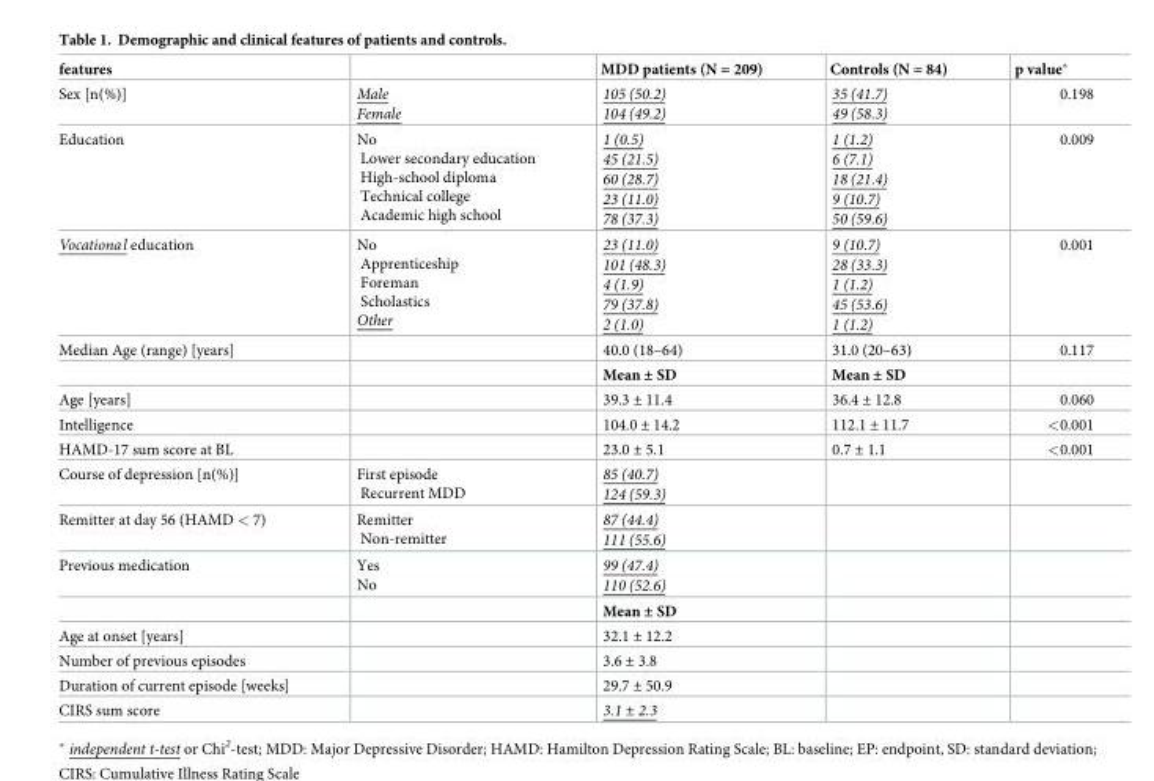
<table><thead><tr><td>features</td><td></td><td>MDD patients (N = 209)</td><td>Controls (N = 84)</td><td>p value*</td></tr></thead><tbody><tr><td>Sex [n(%)]</td><td>Male Female</td><td>105 (50.2) 104 (49.2)</td><td>35 (41.7) 49 (58.3)</td><td>0.198</td></tr><tr><td>Education</td><td>No Lower secondary education High-school diploma Technical college Academic high school</td><td>1 (0.5) 45 (21.5) 60 (28.7) 23 (11.0) 78 (37.3)</td><td>1 (1.2) 6 (7.1) 18 (21.4) 9 (10.7) 50 (59.6)</td><td>0.009</td></tr><tr><td>Vocational education</td><td>No Apprenticeship Foreman Scholastics Other</td><td>23 (11.0) 101 (48.3) 4 (1.9) 79 (37.8) 2 (1.0)</td><td>9 (10.7) 28 (33.3) 1 (1.2) 45 (53.6) 1 (1.2)</td><td>0.001</td></tr><tr><td rowspan="2">Median Age (range) [years]</td><td></td><td>40.0 (18–64)</td><td>31.0 (20–63)</td><td>0.117</td></tr><tr><td></td><td>Mean ± SD</td><td>Mean ± SD</td><td></td></tr><tr><td>Age [years]</td><td></td><td>39.3 ± 11.4</td><td>36.4 ± 12.8</td><td>0.060</td></tr><tr><td>Intelligence</td><td></td><td>104.0 ± 14.2</td><td>112.1 ± 11.7</td><td>&lt;0.001</td></tr><tr><td>HAMD-17 sum score at BL</td><td></td><td>23.0 ± 5.1</td><td>0.7 ± 1.1</td><td>&lt;0.001</td></tr><tr><td>Course of depression [n(%)]</td><td>First episode Recurrent MDD</td><td>85 (40.7) 124 (59.3)</td><td></td><td></td></tr><tr><td>Remitter at day 56 (HAMD &lt; 7)</td><td>Remitter Non-remitter</td><td>87 (44.4) 111 (55.6)</td><td></td><td></td></tr><tr><td rowspan="2">Previous medication</td><td>Yes No</td><td>99 (47.4) 110 (52.6)</td><td></td><td></td></tr><tr><td></td><td>Mean ± SD</td><td></td><td></td></tr><tr><td>Age at onset [years]</td><td></td><td>32.1 ± 12.2</td><td></td><td></td></tr><tr><td>Number of previous episodes</td><td></td><td>3.6 ± 3.8</td><td></td><td></td></tr><tr><td>Duration of current episode [weeks]</td><td></td><td>29.7 ± 50.9</td><td></td><td></td></tr><tr><td>CIRS sum score</td><td></td><td>3.1 ± 2.3</td><td></td><td></td></tr></tbody></table>